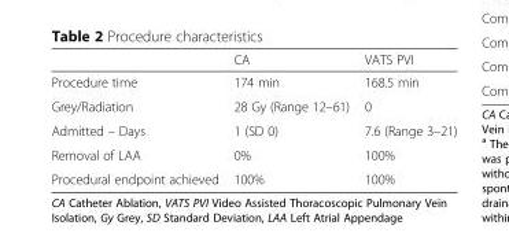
<table><thead><tr><td></td><td>CA</td><td>VATS PVI</td></tr></thead><tbody><tr><td>Procedure time</td><td>174 min</td><td>168.5 min</td></tr><tr><td>Grey/Radiation</td><td>28 Gy (Range 12–61)</td><td>0</td></tr><tr><td>Admitted – Days</td><td>1 (SD 0)</td><td>7.6 (Range 3–21)</td></tr><tr><td>Removal of LAA</td><td>0%</td><td>100%</td></tr><tr><td>Procedural endpoint achieved</td><td>100%</td><td>100%</td></tr></tbody></table>